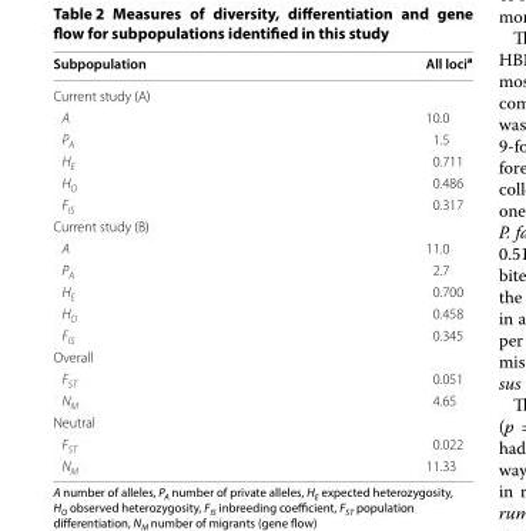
<table><thead><tr><td>Subpopulation</td><td>All loci<sup>a</sup></td></tr></thead><tbody><tr><td colspan="2">Current study (A)</td></tr><tr><td>A</td><td>10.0</td></tr><tr><td>P<sub>A</sub></td><td>1.5</td></tr><tr><td>H<sub>E</sub></td><td>0.711</td></tr><tr><td>H<sub>O</sub></td><td>0.486</td></tr><tr><td>F<sub>IS</sub></td><td>0.317</td></tr><tr><td colspan="2">Current study (B)</td></tr><tr><td>A</td><td>11.0</td></tr><tr><td>P<sub>A</sub></td><td>2.7</td></tr><tr><td>H<sub>E</sub></td><td>0.700</td></tr><tr><td>H<sub>O</sub></td><td>0.458</td></tr><tr><td>F<sub>IS</sub></td><td>0.345</td></tr><tr><td colspan="2">Overall</td></tr><tr><td>F<sub>ST</sub></td><td>0.051</td></tr><tr><td>N<sub>M</sub></td><td>4.65</td></tr><tr><td colspan="2">Neutral</td></tr><tr><td>F<sub>ST</sub></td><td>0.022</td></tr><tr><td>N<sub>M</sub></td><td>11.33</td></tr></tbody></table>